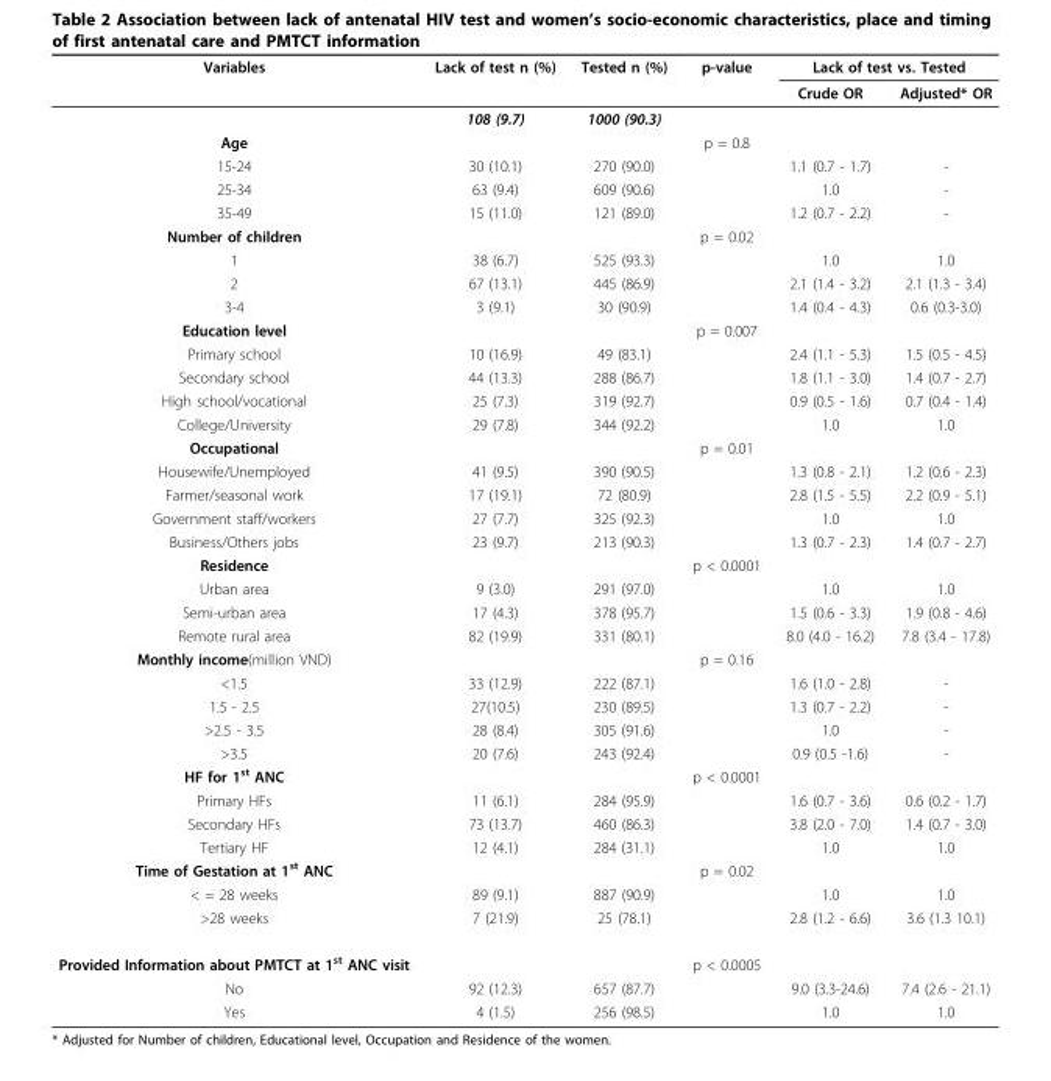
<table><thead><tr><td rowspan="2">Variables</td><td rowspan="2">Lack of test n (%)</td><td rowspan="2">Tested n (%)</td><td rowspan="2">p-value</td><td colspan="2">Lack of test vs. Tested</td></tr><tr><td>Crude OR</td><td>Adjusted* OR</td></tr></thead><tbody><tr><td></td><td>108 (9.7)</td><td>1000 (90.3)</td><td></td><td></td><td></td></tr><tr><td>Age</td><td></td><td></td><td>p = 0.8</td><td></td><td></td></tr><tr><td>15-24</td><td>30 (10.1)</td><td>270 (90.0)</td><td></td><td>1.1 (0.7 - 1.7)</td><td>-</td></tr><tr><td>25-34</td><td>63 (9.4)</td><td>609 (90.6)</td><td></td><td>1.0</td><td>-</td></tr><tr><td>35-49</td><td>15 (11.0)</td><td>121 (89.0)</td><td></td><td>1.2 (0.7 - 2.2)</td><td>-</td></tr><tr><td>Number of children</td><td></td><td></td><td>p = 0.02</td><td></td><td></td></tr><tr><td>1</td><td>38 (6.7)</td><td>525 (93.3)</td><td></td><td>1.0</td><td>1.0</td></tr><tr><td>2</td><td>67 (13.1)</td><td>445 (86.9)</td><td></td><td>2.1 (1.4 - 3.2)</td><td>2.1 (1.3 - 3.4)</td></tr><tr><td>3-4</td><td>3 (9.1)</td><td>30 (90.9)</td><td></td><td>1.4 (0.4 - 4.3)</td><td>0.6 (0.3-3.0)</td></tr><tr><td>Education level</td><td></td><td></td><td>p = 0.007</td><td></td><td></td></tr><tr><td>Primary school</td><td>10 (16.9)</td><td>49 (83.1)</td><td></td><td>2.4 (1.1 - 5.3)</td><td>1.5 (0.5 - 4.5)</td></tr><tr><td>Secondary school</td><td>44 (13.3)</td><td>288 (86.7)</td><td></td><td>1.8 (1.1 - 3.0)</td><td>1.4 (0.7 - 2.7)</td></tr><tr><td>High school/vocational</td><td>25 (7.3)</td><td>319 (92.7)</td><td></td><td>0.9 (0.5 - 1.6)</td><td>0.7 (0.4 - 1.4)</td></tr><tr><td>College/University</td><td>29 (7.8)</td><td>344 (92.2)</td><td></td><td>1.0</td><td>1.0</td></tr><tr><td>Occupational</td><td></td><td></td><td>p = 0.01</td><td></td><td></td></tr><tr><td>Housewife/Unemployed</td><td>41 (9.5)</td><td>390 (90.5)</td><td></td><td>1.3 (0.8 - 2.1)</td><td>1.2 (0.6 - 2.3)</td></tr><tr><td>Farmer/seasonal work</td><td>17 (19.1)</td><td>72 (80.9)</td><td></td><td>2.8 (1.5 - 5.5)</td><td>2.2 (0.9 - 5.1)</td></tr><tr><td>Government staff/workers</td><td>27 (7.7)</td><td>325 (92.3)</td><td></td><td>1.0</td><td>1.0</td></tr><tr><td>Business/Others jobs</td><td>23 (9.7)</td><td>213 (90.3)</td><td></td><td>1.3 (0.7 - 2.3)</td><td>1.4 (0.7 - 2.7)</td></tr><tr><td>Residence</td><td></td><td></td><td>p &lt; 0.0001</td><td></td><td></td></tr><tr><td>Urban area</td><td>9 (3.0)</td><td>291 (97.0)</td><td></td><td>1.0</td><td>1.0</td></tr><tr><td>Semi-urban area</td><td>17 (4.3)</td><td>378 (95.7)</td><td></td><td>1.5 (0.6 - 3.3)</td><td>1.9 (0.8 - 4.6)</td></tr><tr><td>Remote rural area</td><td>82 (19.9)</td><td>331 (80.1)</td><td></td><td>8.0 (4.0 - 16.2)</td><td>7.8 (3.4 - 17.8)</td></tr><tr><td>Monthly income(million VND)</td><td></td><td></td><td>p = 0.16</td><td></td><td></td></tr><tr><td>&lt;1.5</td><td>33 (12.9)</td><td>222 (87.1)</td><td></td><td>1.6 (1.0 - 2.8)</td><td>-</td></tr><tr><td>1.5 - 2.5</td><td>27(10.5)</td><td>230 (89.5)</td><td></td><td>1.3 (0.7 - 2.2)</td><td>-</td></tr><tr><td>&gt;2.5 - 3.5</td><td>28 (8.4)</td><td>305 (91.6)</td><td></td><td>1.0</td><td>-</td></tr><tr><td>&gt;3.5</td><td>20 (7.6)</td><td>243 (92.4)</td><td></td><td>0.9 (0.5 -1.6)</td><td>-</td></tr><tr><td>HF for 1<sup>st</sup> ANC</td><td></td><td></td><td>p &lt; 0.0001</td><td></td><td></td></tr><tr><td>Primary HFs</td><td>11 (6.1)</td><td>284 (95.9)</td><td></td><td>1.6 (0.7 - 3.6)</td><td>0.6 (0.2 - 1.7)</td></tr><tr><td>Secondary HFs</td><td>73 (13.7)</td><td>460 (86.3)</td><td></td><td>3.8 (2.0 - 7.0)</td><td>1.4 (0.7 - 3.0)</td></tr><tr><td>Tertiary HF</td><td>12 (4.1)</td><td>284 (31.1)</td><td></td><td>1.0</td><td>1.0</td></tr><tr><td>Time of Gestation at 1<sup>st</sup> ANC</td><td></td><td></td><td>p = 0.02</td><td></td><td></td></tr><tr><td>&lt; = 28 weeks</td><td>89 (9.1)</td><td>887 (90.9)</td><td></td><td>1.0</td><td>1.0</td></tr><tr><td>&gt;28 weeks</td><td>7 (21.9)</td><td>25 (78.1)</td><td></td><td>2.8 (1.2 - 6.6)</td><td>3.6 (1.3 10.1)</td></tr><tr><td>Provided Information about PMTCT at 1<sup>st</sup> ANC visit</td><td></td><td></td><td>p &lt; 0.0005</td><td></td><td></td></tr><tr><td>No</td><td>92 (12.3)</td><td>657 (87.7)</td><td></td><td>9.0 (3.3-24.6)</td><td>7.4 (2.6 - 21.1)</td></tr><tr><td>Yes</td><td>4 (1.5)</td><td>256 (98.5)</td><td></td><td>1.0</td><td>1.0</td></tr></tbody></table>